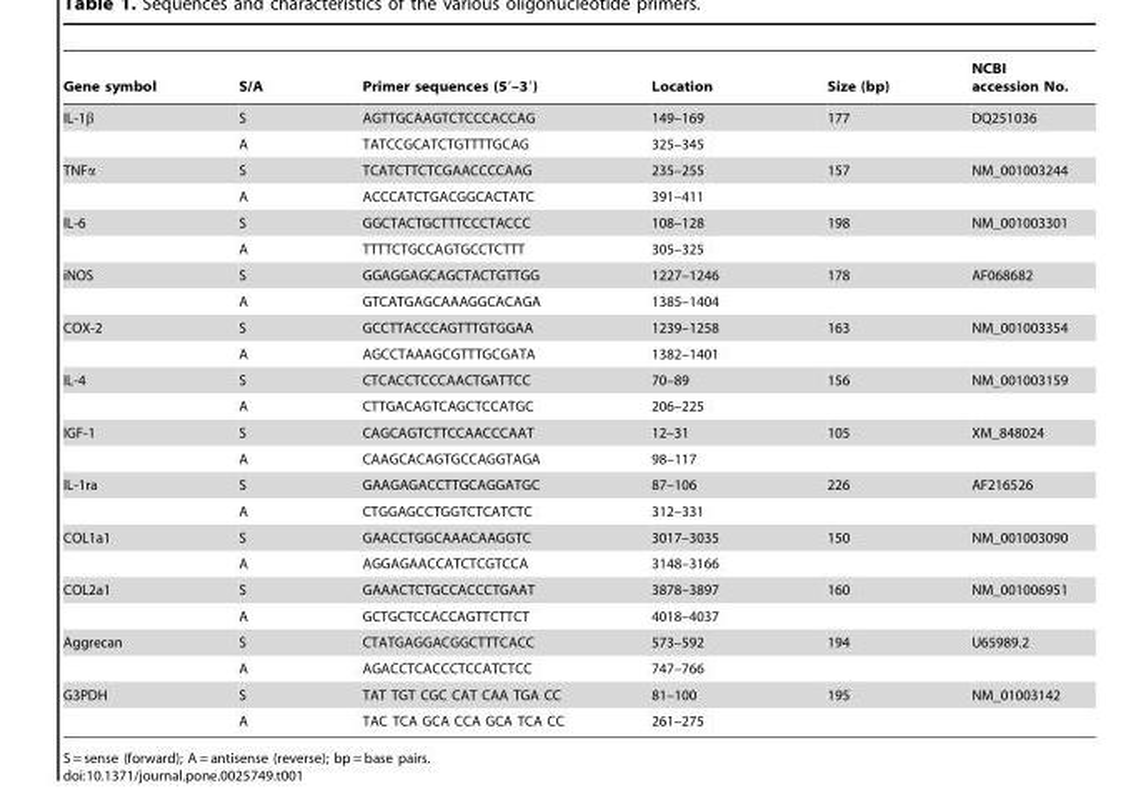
<table><thead><tr><td>Gene symbol</td><td>S/A</td><td>Primer sequences (5′–3′)</td><td>Location</td><td>Size (bp)</td><td>NCBI accession No.</td></tr></thead><tbody><tr><td rowspan="2">IL-1β</td><td>S</td><td>AGTTGCAAGTCTCCCACCAG</td><td>149–169</td><td>177</td><td>DQ251036</td></tr><tr><td>A</td><td>TATCCGCATCTGTTTTGCAG</td><td>325–345</td><td></td><td></td></tr><tr><td rowspan="2">TNFα</td><td>S</td><td>TCATCTTCTCGAACCCCAAG</td><td>235–255</td><td>157</td><td>NM_001003244</td></tr><tr><td>A</td><td>ACCCATCTGACGGCACTATC</td><td>391–411</td><td></td><td></td></tr><tr><td rowspan="2">IL-6</td><td>S</td><td>GGCTACTGCTTTCCCTACCC</td><td>108–128</td><td>198</td><td>NM_001003301</td></tr><tr><td>A</td><td>TTTTCTGCCAGTGCCTCTTT</td><td>305–325</td><td></td><td></td></tr><tr><td rowspan="2">iNOS</td><td>S</td><td>GGAGGAGCAGCTACTGTTGG</td><td>1227–1246</td><td>178</td><td>AF068682</td></tr><tr><td>A</td><td>GTCATGAGCAAAGGCACAGA</td><td>1385–1404</td><td></td><td></td></tr><tr><td rowspan="2">COX-2</td><td>S</td><td>GCCTTACCCAGTTTGTGGAA</td><td>1239–1258</td><td>163</td><td>NM_001003354</td></tr><tr><td>A</td><td>AGCCTAAAGCGTTTGCGATA</td><td>1382–1401</td><td></td><td></td></tr><tr><td rowspan="2">IL-4</td><td>S</td><td>CTCACCTCCCAACTGATTCC</td><td>70–89</td><td>156</td><td>NM_001003159</td></tr><tr><td>A</td><td>CTTGACAGTCAGCTCCATGC</td><td>206–225</td><td></td><td></td></tr><tr><td rowspan="2">IGF-1</td><td>S</td><td>CAGCAGTCTTCCAACCCAAT</td><td>12–31</td><td>105</td><td>XM_848024</td></tr><tr><td>A</td><td>CAAGCACAGTGCCAGGTAGA</td><td>98–117</td><td></td><td></td></tr><tr><td rowspan="2">IL-1ra</td><td>S</td><td>GAAGAGACCTTGCAGGATGC</td><td>87–106</td><td>226</td><td>AF216526</td></tr><tr><td>A</td><td>CTGGAGCCTGGTCTCATCTC</td><td>312–331</td><td></td><td></td></tr><tr><td rowspan="2">COL1a1</td><td>S</td><td>GAACCTGGCAAACAAGGTC</td><td>3017–3035</td><td>150</td><td>NM_001003090</td></tr><tr><td>A</td><td>AGGAGAACCATCTCGTCCA</td><td>3148–3166</td><td></td><td></td></tr><tr><td rowspan="2">COL2a1</td><td>S</td><td>GAAACTCTGCCACCCTGAAT</td><td>3878–3897</td><td>160</td><td>NM_001006951</td></tr><tr><td>A</td><td>GCTGCTCCACCAGTTCTTCT</td><td>4018–4037</td><td></td><td></td></tr><tr><td rowspan="2">Aggrecan</td><td>S</td><td>CTATGAGGACGGCTTTCACC</td><td>573–592</td><td>194</td><td>U65989.2</td></tr><tr><td>A</td><td>AGACCTCACCCTCCATCTCC</td><td>747–766</td><td></td><td></td></tr><tr><td rowspan="2">G3PDH</td><td>S</td><td>TAT TGT CGC CAT CAA TGA CC</td><td>81–100</td><td>195</td><td>NM_01003142</td></tr><tr><td>A</td><td>TAC TCA GCA CCA GCA TCA CC</td><td>261–275</td><td></td><td></td></tr></tbody></table>